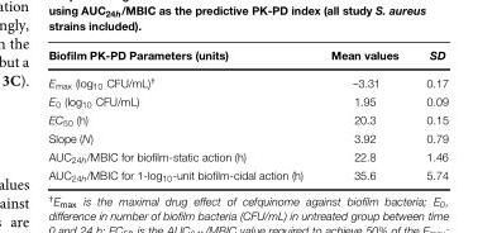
<table><thead><tr><td>Biofilm PK-PD Parameters (units)</td><td>Mean values</td><td>SD</td></tr></thead><tbody><tr><td>E<sub>max</sub> (log<sub>10</sub> CFU/mL)<sup>†</sup></td><td>–3.31</td><td>0.17</td></tr><tr><td>E<sub>0</sub> (log<sub>10</sub> CFU/mL)</td><td>1.95</td><td>0.09</td></tr><tr><td>EC<sub>50</sub> (h)</td><td>20.3</td><td>0.15</td></tr><tr><td>Slope (N)</td><td>3.92</td><td>0.79</td></tr><tr><td>AUC<sub>24h</sub>/MBIC for biofilm-static action (h)</td><td>22.8</td><td>1.46</td></tr><tr><td>AUC<sub>24h</sub>/MBIC for 1-log<sub>10</sub>-unit biofilm-cidal action (h)</td><td>35.6</td><td>5.74</td></tr></tbody></table>